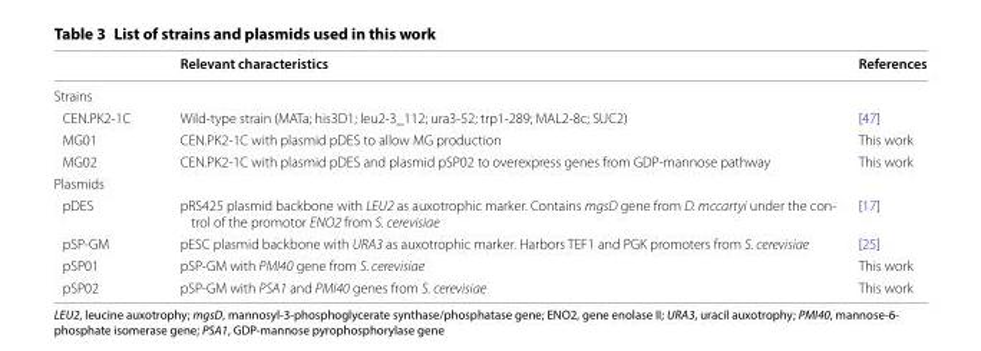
<table><thead><tr><td></td><td>Relevant characteristics</td><td>References</td></tr></thead><tbody><tr><td colspan="3">Strains</td></tr><tr><td>CEN.PK2-1C</td><td>Wild-type strain (MATa; his3D1; leu2-3_112; ura3-52; trp1-289; MAL2-8c; SUC2)</td><td>[47]</td></tr><tr><td>MG01</td><td>CEN.PK2-1C with plasmid pDES to allow MG production</td><td>This work</td></tr><tr><td>MG02</td><td>CEN.PK2-1C with plasmid pDES and plasmid pSP02 to overexpress genes from GDP-mannose pathway</td><td>This work</td></tr><tr><td colspan="3">Plasmids</td></tr><tr><td>pDES</td><td>pRS425 plasmid backbone with LEU2 as auxotrophic marker. Contains mgsD gene from D. mccartyi under the con- trol of the promotor ENO2 from S. cerevisiae</td><td>[17]</td></tr><tr><td>pSP-GM</td><td>pESC plasmid backbone with URA3 as auxotrophic marker. Harbors TEF1 and PGK promoters from S. cerevisiae</td><td>[25]</td></tr><tr><td>pSP01</td><td>pSP-GM with PMI40 gene from S. cerevisiae</td><td>This work</td></tr><tr><td>pSP02</td><td>pSP-GM with PSA1 and PMI40 genes from S. cerevisiae</td><td>This work</td></tr></tbody></table>